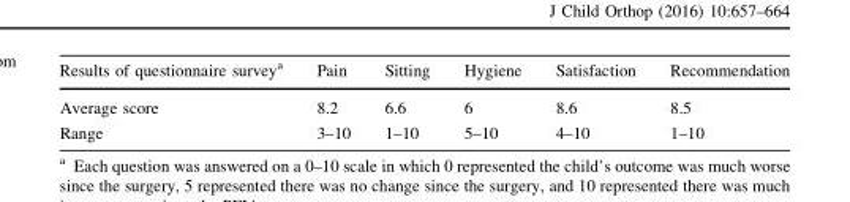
<table><thead><tr><td>Results of questionnaire survey<sup>a</sup></td><td>Pain</td><td>Sitting</td><td>Hygiene</td><td>Satisfaction</td><td>Recommendation</td></tr></thead><tbody><tr><td>Average score</td><td>8.2</td><td>6.6</td><td>6</td><td>8.6</td><td>8.5</td></tr><tr><td>Range</td><td>3–10</td><td>1–10</td><td>5–10</td><td>4–10</td><td>1–10</td></tr></tbody></table>